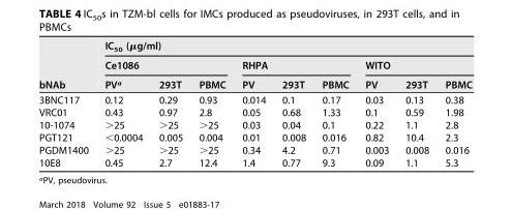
<table><thead><tr><td rowspan="3">bNAb</td><td colspan="9">IC<sub>50</sub> (μg/ml)</td></tr><tr><td colspan="3">Ce1086</td><td colspan="3">RHPA</td><td colspan="3">WITO</td></tr><tr><td>PV<sup>a</sup></td><td>293T</td><td>PBMC</td><td>PV</td><td>293T</td><td>PBMC</td><td>PV</td><td>293T</td><td>PBMC</td></tr></thead><tbody><tr><td>3BNC117</td><td>0.12</td><td>0.29</td><td>0.93</td><td>0.014</td><td>0.1</td><td>0.17</td><td>0.03</td><td>0.13</td><td>0.38</td></tr><tr><td>VRC01</td><td>0.43</td><td>0.97</td><td>2.8</td><td>0.05</td><td>0.68</td><td>1.33</td><td>0.1</td><td>0.59</td><td>1.98</td></tr><tr><td>10-1074</td><td>&gt;25</td><td>&gt;25</td><td>&gt;25</td><td>0.03</td><td>0.04</td><td>0.1</td><td>0.22</td><td>1.1</td><td>2.8</td></tr><tr><td>PGT121</td><td>&lt;0.0004</td><td>0.005</td><td>0.004</td><td>0.01</td><td>0.008</td><td>0.016</td><td>0.82</td><td>10.4</td><td>2.3</td></tr><tr><td>PGDM1400</td><td>&gt;25</td><td>&gt;25</td><td>&gt;25</td><td>0.34</td><td>4.2</td><td>0.71</td><td>0.003</td><td>0.008</td><td>0.016</td></tr><tr><td>10E8</td><td>0.45</td><td>2.7</td><td>12.4</td><td>1.4</td><td>0.77</td><td>9.3</td><td>0.09</td><td>1.1</td><td>5.3</td></tr></tbody></table>